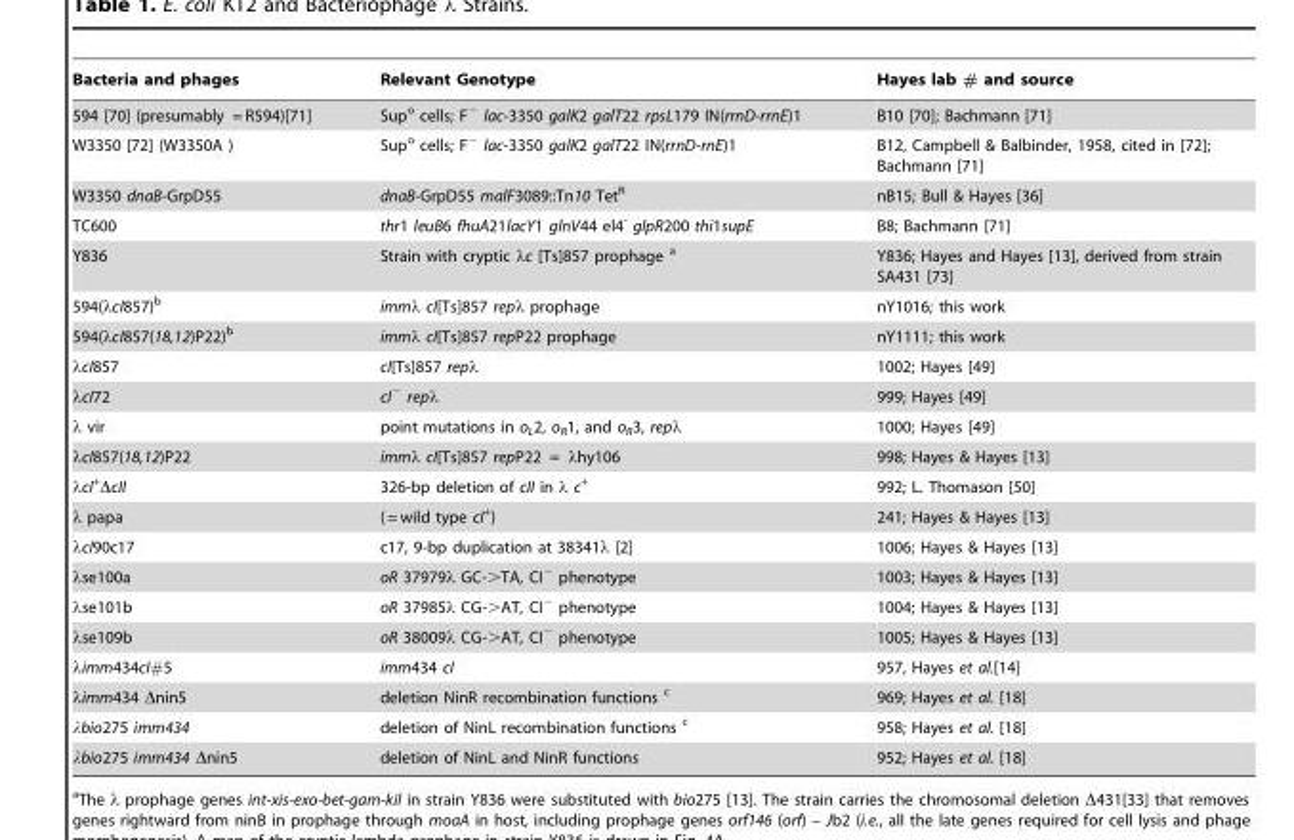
<table><thead><tr><td>Bacteria and phages</td><td>Relevant Genotype</td><td>Hayes lab # and source</td></tr></thead><tbody><tr><td>594 [70] (presumably = R594)[71]</td><td>Sup<sup>o</sup> cells; F<sup>−</sup> lac-3350 galK2 galT22 rpsL179 IN(rrnD-rrnE)1</td><td>B10 [70]; Bachmann [71]</td></tr><tr><td>W3350 [72] (W3350A )</td><td>Sup<sup>o</sup> cells; F<sup>−</sup> lac-3350 galK2 galT22 IN(rrnD-rnE)1</td><td>B12, Campbell &amp; Balbinder, 1958, cited in [72]; Bachmann [71]</td></tr><tr><td>W3350 dnaB-GrpD55</td><td>dnaB-GrpD55 malF3089::Tn10 Tet<sup>R</sup></td><td>nB15; Bull &amp; Hayes [36]</td></tr><tr><td>TC600</td><td>thr1 leuB6 fhuA21lacY1 glnV44 el4<sup>-</sup> glpR200 thi1supE</td><td>B8; Bachmann [71]</td></tr><tr><td>Y836</td><td>Strain with cryptic λc [Ts]857 prophage a</td><td>Y836; Hayes and Hayes [13], derived from strain SA431 [73]</td></tr><tr><td>594(λcI857)<sup>b</sup></td><td>immλ cI[Ts]857 repλ prophage</td><td>nY1016; this work</td></tr><tr><td>594(λcI857(18,12)P22)<sup>b</sup></td><td>immλ cI[Ts]857 repP22 prophage</td><td>nY1111; this work</td></tr><tr><td>λcI857</td><td>cI[Ts]857 repλ</td><td>1002; Hayes [49]</td></tr><tr><td>λcI72</td><td>cI<sup>−</sup> repλ</td><td>999; Hayes [49]</td></tr><tr><td>λ vir</td><td>point mutations in o<sub>L</sub>2, o<sub>R</sub>1, and o<sub>R</sub>3, repλ</td><td>1000; Hayes [49]</td></tr><tr><td>λcI857(18,12)P22</td><td>immλ cI[Ts]857 repP22 = λhy106</td><td>998; Hayes &amp; Hayes [13]</td></tr><tr><td>λcI<sup>+</sup>ΔcII</td><td>326-bp deletion of cII in λ c<sup>+</sup></td><td>992; L. Thomason [50]</td></tr><tr><td>λ papa</td><td>( = wild type cI<sup>+</sup>)</td><td>241; Hayes &amp; Hayes [13]</td></tr><tr><td>λcI90c17</td><td>c17, 9-bp duplication at 38341λ [2]</td><td>1006; Hayes &amp; Hayes [13]</td></tr><tr><td>λse100a</td><td>oR 37979λ GC-&gt;TA, CI<sup>−</sup> phenotype</td><td>1003; Hayes &amp; Hayes [13]</td></tr><tr><td>λse101b</td><td>oR 37985λ CG-&gt;AT, CI<sup>−</sup> phenotype</td><td>1004; Hayes &amp; Hayes [13]</td></tr><tr><td>λse109b</td><td>oR 38009λ CG-&gt;AT, CI<sup>−</sup> phenotype</td><td>1005; Hayes &amp; Hayes [13]</td></tr><tr><td>λimm434cI#5</td><td>imm434 cI</td><td>957, Hayes et al.[14]</td></tr><tr><td>λimm434 Δnin5</td><td>deletion NinR recombination functions c</td><td>969; Hayes et al. [18]</td></tr><tr><td>λbio275 imm434</td><td>deletion of NinL recombination functions c</td><td>958; Hayes et al. [18]</td></tr><tr><td>λbio275 imm434 Δnin5</td><td>deletion of NinL and NinR functions</td><td>952; Hayes et al. [18]</td></tr></tbody></table>